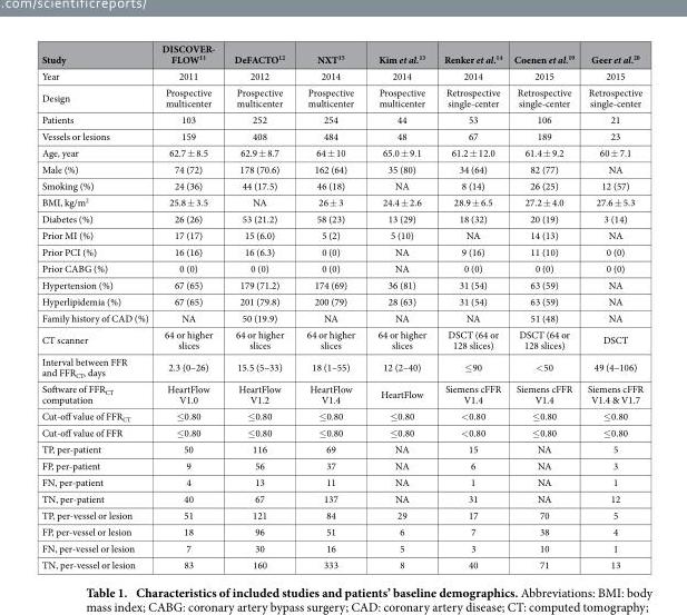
<table><thead><tr><td>Study</td><td>DISCOVER- FLOW<sup>11</sup></td><td>DeFACTO<sup>12</sup></td><td>NXT<sup>15</sup></td><td>Kim et al.<sup>13</sup></td><td>Renker et al.<sup>14</sup></td><td>Coenen et al.<sup>19</sup></td><td>Geer et al.<sup>20</sup></td></tr></thead><tbody><tr><td>Year</td><td>2011</td><td>2012</td><td>2014</td><td>2014</td><td>2014</td><td>2015</td><td>2015</td></tr><tr><td>Design</td><td>Prospective multicenter</td><td>Prospective multicenter</td><td>Prospective multicenter</td><td>Prospective multicenter</td><td>Retrospective single-center</td><td>Retrospective single-center</td><td>Retrospective single-center</td></tr><tr><td>Patients</td><td>103</td><td>252</td><td>254</td><td>44</td><td>53</td><td>106</td><td>21</td></tr><tr><td>Vessels or lesions</td><td>159</td><td>408</td><td>484</td><td>48</td><td>67</td><td>189</td><td>23</td></tr><tr><td>Age, year</td><td>62.7 ± 8.5</td><td>62.9 ± 8.7</td><td>64 ± 10</td><td>65.0 ± 9.1</td><td>61.2 ± 12.0</td><td>61.4 ± 9.2</td><td>60 ± 7.1</td></tr><tr><td>Male (%)</td><td>74 (72)</td><td>178 (70.6)</td><td>162 (64)</td><td>35 (80)</td><td>34 (64)</td><td>82 (77)</td><td>NA</td></tr><tr><td>Smoking (%)</td><td>24 (36)</td><td>44 (17.5)</td><td>46 (18)</td><td>NA</td><td>8 (14)</td><td>26 (25)</td><td>12 (57)</td></tr><tr><td>BMI, kg/m<sup>2</sup></td><td>25.8 ± 3.5</td><td>NA</td><td>26 ± 3</td><td>24.4 ± 2.6</td><td>28.9 ± 6.5</td><td>27.2 ± 4.0</td><td>27.6 ± 5.3</td></tr><tr><td>Diabetes (%)</td><td>26 (26)</td><td>53 (21.2)</td><td>58 (23)</td><td>13 (29)</td><td>18 (32)</td><td>20 (19)</td><td>3 (14)</td></tr><tr><td>Prior MI (%)</td><td>17 (17)</td><td>15 (6.0)</td><td>5 (2)</td><td>5 (10)</td><td>NA</td><td>14 (13)</td><td>NA</td></tr><tr><td>Prior PCI (%)</td><td>16 (16)</td><td>16 (6.3)</td><td>0 (0)</td><td>NA</td><td>9 (16)</td><td>11 (10)</td><td>0 (0)</td></tr><tr><td>Prior CABG (%)</td><td>0 (0)</td><td>0 (0)</td><td>0 (0)</td><td>NA</td><td>0 (0)</td><td>0 (0)</td><td>0 (0)</td></tr><tr><td>Hypertension (%)</td><td>67 (65)</td><td>179 (71.2)</td><td>174 (69)</td><td>36 (81)</td><td>31 (54)</td><td>63 (59)</td><td>NA</td></tr><tr><td>Hyperlipidemia (%)</td><td>67 (65)</td><td>201 (79.8)</td><td>200 (79)</td><td>28 (63)</td><td>31 (54)</td><td>63 (59)</td><td>NA</td></tr><tr><td>Family history of CAD (%)</td><td>NA</td><td>50 (19.9)</td><td>NA</td><td>NA</td><td>NA</td><td>51 (48)</td><td>NA</td></tr><tr><td>CT scanner</td><td>64 or higher slices</td><td>64 or higher slices</td><td>64 or higher slices</td><td>64 or higher slices</td><td>DSCT (64 or 128 slices)</td><td>DSCT (64 or 128 slices)</td><td>DSCT</td></tr><tr><td>Interval between FFR and FFR<sub>CT</sub>, days</td><td>2.3 (0–26)</td><td>15.5 (5–33)</td><td>18 (1–55)</td><td>12 (2–40)</td><td>≤ 90</td><td>&lt; 50</td><td>49 (4–106)</td></tr><tr><td>Software of FFR<sub>CT</sub> computation</td><td>HeartFlow V1.0</td><td>HeartFlow V1.2</td><td>HeartFlow V1.4</td><td>HeartFlow</td><td>Siemens cFFR V1.4</td><td>Siemens cFFR V1.4</td><td>Siemens cFFR V1.4 &amp; V1.7</td></tr><tr><td>Cut-off value of FFR<sub>CT</sub></td><td>≤ 0.80</td><td>≤ 0.80</td><td>≤ 0.80</td><td>≤ 0.80</td><td>&lt; 0.80</td><td>≤ 0.80</td><td>≤ 0.80</td></tr><tr><td>Cut-off value of FFR</td><td>≤ 0.80</td><td>≤ 0.80</td><td>≤ 0.80</td><td>≤ 0.80</td><td>&lt; 0.80</td><td>≤ 0.80</td><td>≤ 0.80</td></tr><tr><td>TP, per-patient</td><td>50</td><td>116</td><td>69</td><td>NA</td><td>15</td><td>NA</td><td>5</td></tr><tr><td>FP, per-patient</td><td>9</td><td>56</td><td>37</td><td>NA</td><td>6</td><td>NA</td><td>3</td></tr><tr><td>FN, per-patient</td><td>4</td><td>13</td><td>11</td><td>NA</td><td>1</td><td>NA</td><td>1</td></tr><tr><td>TN, per-patient</td><td>40</td><td>67</td><td>137</td><td>NA</td><td>31</td><td>NA</td><td>12</td></tr><tr><td>TP, per-vessel or lesion</td><td>51</td><td>121</td><td>84</td><td>29</td><td>17</td><td>70</td><td>5</td></tr><tr><td>FP, per-vessel or lesion</td><td>18</td><td>96</td><td>51</td><td>6</td><td>7</td><td>38</td><td>4</td></tr><tr><td>FN, per-vessel or lesion</td><td>7</td><td>30</td><td>16</td><td>5</td><td>3</td><td>10</td><td>1</td></tr><tr><td>TN, per-vessel or lesion</td><td>83</td><td>160</td><td>333</td><td>8</td><td>40</td><td>71</td><td>13</td></tr></tbody></table>